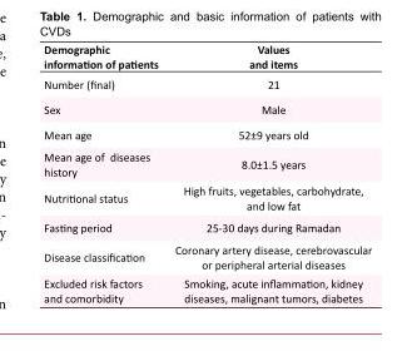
<table><tbody><tr><td>Demographic information of patients</td><td>Values and items</td></tr><tr><td>Number (final)</td><td>21</td></tr><tr><td>Sex</td><td>Male</td></tr><tr><td>Mean age</td><td>52±9 years old</td></tr><tr><td>Mean age of diseases history</td><td>8.0±1.5 years</td></tr><tr><td>Nutritional status</td><td>High fruits, vegetables, carbohydrate, and low fat</td></tr><tr><td>Fasting period</td><td>25-30 days during Ramadan</td></tr><tr><td>Disease classification</td><td>Coronary artery disease, cerebrovascular or peripheral arterial diseases</td></tr><tr><td>Excluded risk factors and comorbidity</td><td>Smoking, acute inflammation, kidney diseases, malignant tumors, diabetes</td></tr></tbody></table>